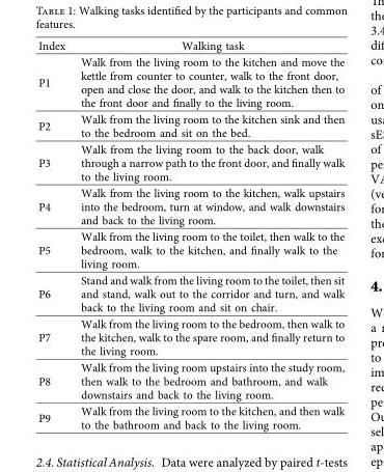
<table><thead><tr><td>Index</td><td>Walking task</td></tr></thead><tbody><tr><td>P1</td><td>Walk from the living room to the kitchen and move the kettle from counter to counter, walk to the front door, open and close the door, and walk to the kitchen then to the front door and finally to the living room.</td></tr><tr><td>P2</td><td>Walk from the living room to the kitchen sink and then to the bedroom and sit on the bed.</td></tr><tr><td>P3</td><td>Walk from the living room to the back door, walk through a narrow path to the front door, and finally walk to the living room.</td></tr><tr><td>P4</td><td>Walk from the living room to the kitchen, walk upstairs into the bedroom, turn at window, and walk downstairs and back to the living room.</td></tr><tr><td>P5</td><td>Walk from the living room to the toilet, then walk to the bedroom, walk to the kitchen, and finally walk to the living room.</td></tr><tr><td>P6</td><td>Stand and walk from the living room to the toilet, then sit and stand, walk out to the corridor and turn, and walk back to the living room and sit on chair.</td></tr><tr><td>P7</td><td>Walk from the living room to the bedroom, then walk to the kitchen, walk to the spare room, and finally return to the living room.</td></tr><tr><td>P8</td><td>Walk from the living room upstairs into the study room, then walk to the bedroom and bathroom, and walk downstairs and back to the living room.</td></tr><tr><td>P9</td><td>Walk from the living room to the kitchen, and then walk to the bathroom and back to the living room.</td></tr></tbody></table>